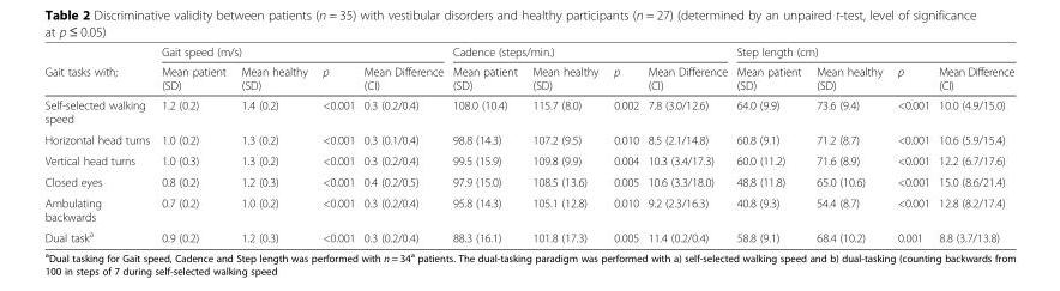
<table><thead><tr><td rowspan="2">Gait tasks with;</td><td colspan="4">Gait speed (m/s)</td><td colspan="4">Cadence (steps/min.)</td><td colspan="4">Step length (cm)</td></tr><tr><td>Mean patient (SD)</td><td>Mean healthy (SD)</td><td>p</td><td>Mean Difference (CI)</td><td>Mean patient (SD)</td><td>Mean healthy (SD)</td><td>p</td><td>Mean Difference (CI)</td><td>Mean patient (SD)</td><td>Mean healthy (SD)</td><td>p</td><td>Mean Difference (CI)</td></tr></thead><tbody><tr><td>Self-selected walking speed</td><td>1.2 (0.2)</td><td>1.4 (0.2)</td><td>&lt;0.001</td><td>0.3 (0.2/0.4)</td><td>108.0 (10.4)</td><td>115.7 (8.0)</td><td>0.002</td><td>7.8 (3.0/12.6)</td><td>64.0 (9.9)</td><td>73.6 (9.4)</td><td>&lt;0.001</td><td>10.0 (4.9/15.0)</td></tr><tr><td>Horizontal head turns</td><td>1.0 (0.2)</td><td>1.3 (0.2)</td><td>&lt;0.001</td><td>0.3 (0.1/0.4)</td><td>98.8 (14.3)</td><td>107.2 (9.5)</td><td>0.010</td><td>8.5 (2.1/14.8)</td><td>60.8 (9.1)</td><td>71.2 (8.7)</td><td>&lt;0.001</td><td>10.6 (5.9/15.4)</td></tr><tr><td>Vertical head turns</td><td>1.0 (0.3)</td><td>1.3 (0.2)</td><td>&lt;0.001</td><td>0.3 (0.2/0.4)</td><td>99.5 (15.9)</td><td>109.8 (9.9)</td><td>0.004</td><td>10.3 (3.4/17.3)</td><td>60.0 (11.2)</td><td>71.6 (8.9)</td><td>&lt;0.001</td><td>12.2 (6.7/17.6)</td></tr><tr><td>Closed eyes</td><td>0.8 (0.2)</td><td>1.2 (0.3)</td><td>&lt;0.001</td><td>0.4 (0.2/0.5)</td><td>97.9 (15.0)</td><td>108.5 (13.6)</td><td>0.005</td><td>10.6 (3.3/18.0)</td><td>48.8 (11.8)</td><td>65.0 (10.6)</td><td>&lt;0.001</td><td>15.0 (8.6/21.4)</td></tr><tr><td>Ambulating backwards</td><td>0.7 (0.2)</td><td>1.0 (0.2)</td><td>&lt;0.001</td><td>0.3 (0.2/0.4)</td><td>95.8 (14.3)</td><td>105.1 (12.8)</td><td>0.010</td><td>9.2 (2.3/16.3)</td><td>40.8 (9.3)</td><td>54.4 (8.7)</td><td>&lt;0.001</td><td>12.8 (8.2/17.4)</td></tr><tr><td>Dual task<sup>a</sup></td><td>0.9 (0.2)</td><td>1.2 (0.3)</td><td>&lt;0.001</td><td>0.3 (0.2/0.4)</td><td>88.3 (16.1)</td><td>101.8 (17.3)</td><td>0.005</td><td>11.4 (0.2/0.4)</td><td>58.8 (9.1)</td><td>68.4 (10.2)</td><td>0.001</td><td>8.8 (3.7/13.8)</td></tr></tbody></table>